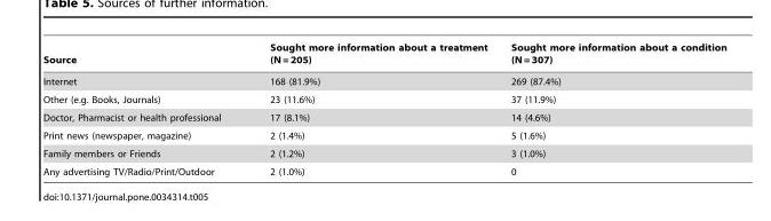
<table><thead><tr><td>Source</td><td>Sought more information about a treatment (N = 205)</td><td>Sought more information about a condition (N = 307)</td></tr></thead><tbody><tr><td>Internet</td><td>168 (81.9%)</td><td>269 (87.4%)</td></tr><tr><td>Other (e.g. Books, Journals)</td><td>23 (11.6%)</td><td>37 (11.9%)</td></tr><tr><td>Doctor, Pharmacist or health professional</td><td>17 (8.1%)</td><td>14 (4.6%)</td></tr><tr><td>Print news (newspaper, magazine)</td><td>2 (1.4%)</td><td>5 (1.6%)</td></tr><tr><td>Family members or Friends</td><td>2 (1.2%)</td><td>3 (1.0%)</td></tr><tr><td>Any advertising TV/Radio/Print/Outdoor</td><td>2 (1.0%)</td><td>0</td></tr></tbody></table>